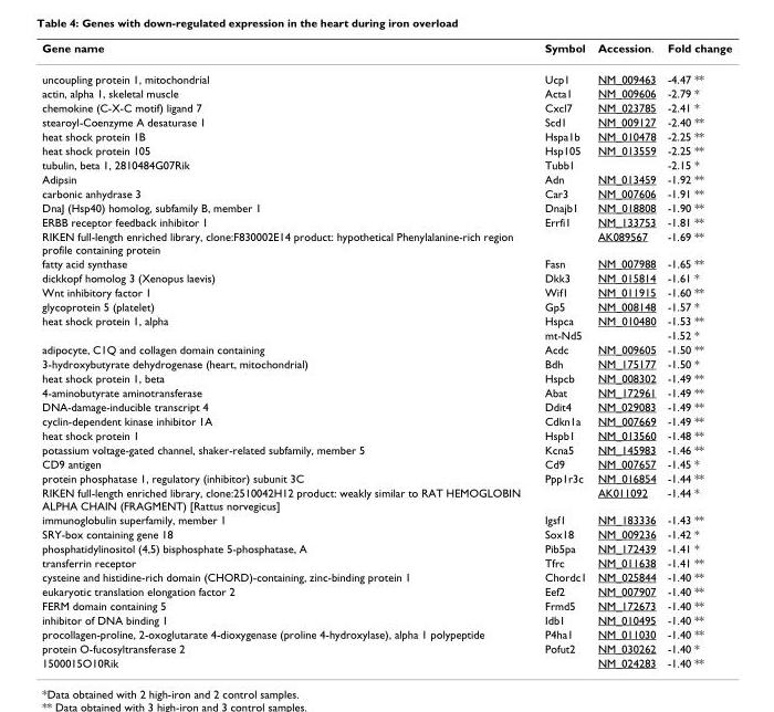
<table><thead><tr><td>Gene name</td><td>Symbol</td><td>Accession.</td><td>Fold change</td></tr></thead><tbody><tr><td>uncoupling protein 1, mitochondrial</td><td>Ucp1</td><td>NM_009463</td><td>-4.47 **</td></tr><tr><td>actin, alpha 1, skeletal muscle</td><td>Acta1</td><td>NM_009606</td><td>-2.79 *</td></tr><tr><td>chemokine (C-X-C motif) ligand 7</td><td>Cxcl7</td><td>NM_023785</td><td>-2.41 *</td></tr><tr><td>stearoyl-Coenzyme A desaturase 1</td><td>Scd1</td><td>NM_009127</td><td>-2.40 **</td></tr><tr><td>heat shock protein 1B</td><td>Hspa1b</td><td>NM_010478</td><td>-2.25 **</td></tr><tr><td>heat shock protein 105</td><td>Hsp105</td><td>NM_013559</td><td>-2.25 **</td></tr><tr><td>tubulin, beta 1, 2810484G07Rik</td><td>Tubb1</td><td></td><td>-2.15 *</td></tr><tr><td>Adipsin</td><td>Adn</td><td>NM_013459</td><td>-1.92 **</td></tr><tr><td>carbonic anhydrase 3</td><td>Car3</td><td>NM_007606</td><td>-1.91 **</td></tr><tr><td>DnaJ (Hsp40) homolog, subfamily B, member 1</td><td>Dnajb1</td><td>NM_018808</td><td>-1.90 **</td></tr><tr><td>ERBB receptor feedback inhibitor 1</td><td>Errfi1</td><td>NM_133753</td><td>-1.81 **</td></tr><tr><td>RIKEN full-length enriched library, clone:F830002E14 product: hypothetical Phenylalanine-rich region profile containing protein</td><td></td><td>AK089567</td><td>-1.69 **</td></tr><tr><td>fatty acid synthase</td><td>Fasn</td><td>NM_007988</td><td>-1.65 **</td></tr><tr><td>dickkopf homolog 3 (Xenopus laevis)</td><td>Dkk3</td><td>NM_015814</td><td>-1.61 *</td></tr><tr><td>Wnt inhibitory factor 1</td><td>Wif1</td><td>NM_011915</td><td>-1.60 **</td></tr><tr><td>glycoprotein 5 (platelet)</td><td>Gp5</td><td>NM_008148</td><td>-1.57 *</td></tr><tr><td rowspan="2">heat shock protein 1, alpha</td><td>Hspca</td><td>NM_010480</td><td>-1.53 **</td></tr><tr><td>mt-Nd5</td><td></td><td>-1.52 *</td></tr><tr><td>adipocyte, C1Q and collagen domain containing</td><td>Acdc</td><td>NM_009605</td><td>-1.50 **</td></tr><tr><td>3-hydroxybutyrate dehydrogenase (heart, mitochondrial)</td><td>Bdh</td><td>NM_175177</td><td>-1.50 *</td></tr><tr><td>heat shock protein 1, beta</td><td>Hspcb</td><td>NM_008302</td><td>-1.49 **</td></tr><tr><td>4-aminobutyrate aminotransferase</td><td>Abat</td><td>NM_172961</td><td>-1.49 **</td></tr><tr><td>DNA-damage-inducible transcript 4</td><td>Ddit4</td><td>NM_029083</td><td>-1.49 **</td></tr><tr><td>cyclin-dependent kinase inhibitor 1A</td><td>Cdkn1a</td><td>NM_007669</td><td>-1.49 **</td></tr><tr><td>heat shock protein 1</td><td>Hspb1</td><td>NM_013560</td><td>-1.48 **</td></tr><tr><td>potassium voltage-gated channel, shaker-related subfamily, member 5</td><td>Kcna5</td><td>NM_145983</td><td>-1.46 **</td></tr><tr><td>CD9 antigen</td><td>Cd9</td><td>NM_007657</td><td>-1.45 *</td></tr><tr><td>protein phosphatase 1, regulatory (inhibitor) subunit 3C</td><td>Ppp1r3c</td><td>NM_016854</td><td>-1.44 **</td></tr><tr><td>RIKEN full-length enriched library, clone:2510042H12 product: weakly similar to RAT HEMOGLOBIN ALPHA CHAIN (FRAGMENT) [Rattus norvegicus]</td><td></td><td>AK011092</td><td>-1.44 *</td></tr><tr><td>immunoglobulin superfamily, member 1</td><td>Igsf1</td><td>NM_183336</td><td>-1.43 **</td></tr><tr><td>SRY-box containing gene 18</td><td>Sox18</td><td>NM_009236</td><td>-1.42 *</td></tr><tr><td>phosphatidylinositol (4,5) bisphosphate 5-phosphatase, A</td><td>Pib5pa</td><td>NM_172439</td><td>-1.41 *</td></tr><tr><td>transferrin receptor</td><td>Tfrc</td><td>NM_011638</td><td>-1.41 **</td></tr><tr><td>cysteine and histidine-rich domain (CHORD)-containing, zinc-binding protein 1</td><td>Chordc1</td><td>NM_025844</td><td>-1.40 **</td></tr><tr><td>eukaryotic translation elongation factor 2</td><td>Eef2</td><td>NM_007907</td><td>-1.40 **</td></tr><tr><td>FERM domain containing 5</td><td>Frmd5</td><td>NM_172673</td><td>-1.40 **</td></tr><tr><td>inhibitor of DNA binding 1</td><td>Idb1</td><td>NM_010495</td><td>-1.40 **</td></tr><tr><td>procollagen-proline, 2-oxoglutarate 4-dioxygenase (proline 4-hydroxylase), alpha 1 polypeptide</td><td>P4ha1</td><td>NM_011030</td><td>-1.40 **</td></tr><tr><td>protein O-fucosyltransferase 2</td><td>Pofut2</td><td>NM_030262</td><td>-1.40 *</td></tr><tr><td>1500015O10Rik</td><td></td><td>NM_024283</td><td>-1.40 **</td></tr></tbody></table>